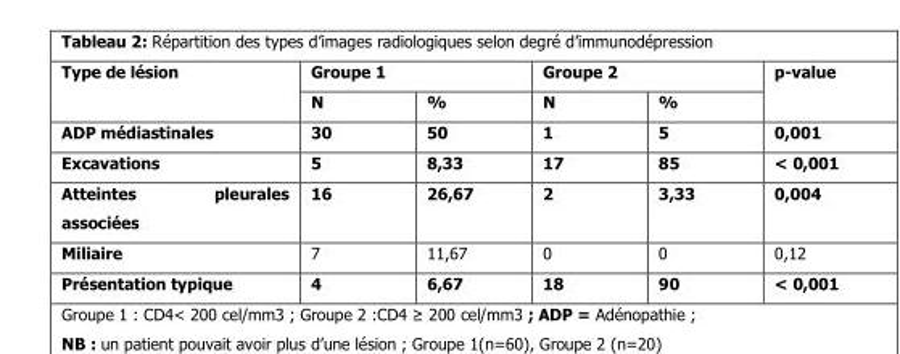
<table><thead><tr><td rowspan="2">Type de lésion</td><td colspan="2">Groupe 1</td><td colspan="2">Groupe 2</td><td rowspan="2">p-value</td></tr><tr><td>N</td><td>%</td><td>N</td><td>%</td></tr></thead><tbody><tr><td>ADP médiastinales</td><td>30</td><td>50</td><td>1</td><td>5</td><td>0,001</td></tr><tr><td>Excavations</td><td>5</td><td>8,33</td><td>17</td><td>85</td><td>&lt; 0,001</td></tr><tr><td>Atteintes pleurales associées</td><td>16</td><td>26,67</td><td>2</td><td>3,33</td><td>0,004</td></tr><tr><td>Miliaire</td><td>7</td><td>11,67</td><td>0</td><td>0</td><td>0,12</td></tr><tr><td>Présentation typique</td><td>4</td><td>6,67</td><td>18</td><td>90</td><td>&lt; 0,001</td></tr></tbody></table>